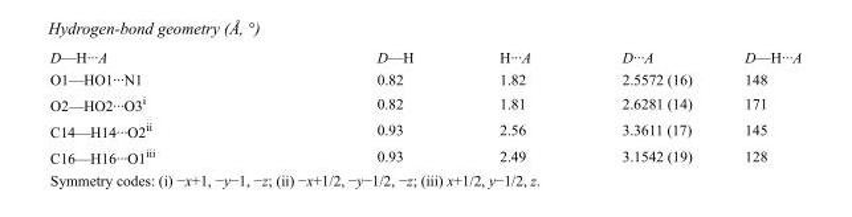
<table><tbody><tr><td>D—H···A</td><td>D—H</td><td>H···A</td><td>D···A</td><td>D—H···A</td></tr><tr><td>O1—HO1···N1</td><td>0.82</td><td>1.82</td><td>2.5572 (16)</td><td>148</td></tr><tr><td>O2—HO2···O3<sup>i</sup></td><td>0.82</td><td>1.81</td><td>2.6281 (14)</td><td>171</td></tr><tr><td>C14—H14···O2<sup>ii</sup></td><td>0.93</td><td>2.56</td><td>3.3611 (17)</td><td>145</td></tr><tr><td>C16—H16···O1<sup>iii</sup></td><td>0.93</td><td>2.49</td><td>3.1542 (19)</td><td>128</td></tr></tbody></table>